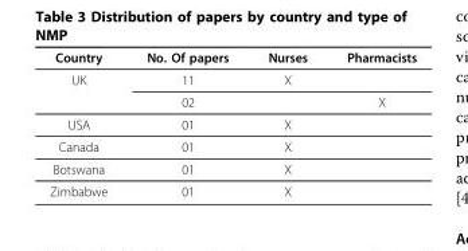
<table><thead><tr><td>Country</td><td>No. Of papers</td><td>Nurses</td><td>Pharmacists</td></tr></thead><tbody><tr><td rowspan="2">UK</td><td>11</td><td>X</td><td></td></tr><tr><td>02</td><td></td><td>X</td></tr><tr><td>USA</td><td>01</td><td>X</td><td></td></tr><tr><td>Canada</td><td>01</td><td>X</td><td></td></tr><tr><td>Botswana</td><td>01</td><td>X</td><td></td></tr><tr><td>Zimbabwe</td><td>01</td><td>X</td><td></td></tr></tbody></table>